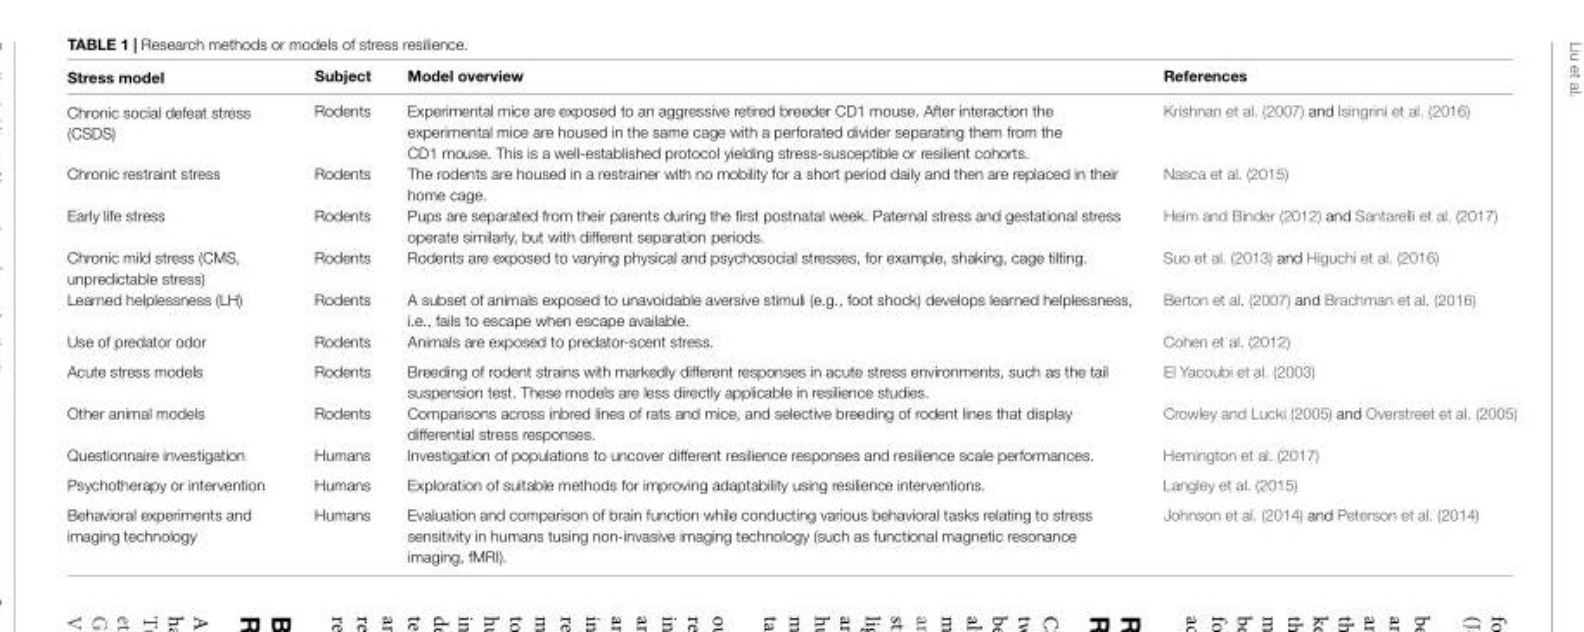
<table><thead><tr><td>Stress model</td><td>Subject</td><td>Model overview</td><td>References</td></tr></thead><tbody><tr><td>Chronic social defeat stress (CSDS)</td><td>Rodents</td><td>Experimental mice are exposed to an aggressive retired breeder CD1 mouse. After interaction the experimental mice are housed in the same cage with a perforated divider separating them from the CD1 mouse. This is a well-established protocol yielding stress-susceptible or resilient cohorts.</td><td>Krishnan et al. (2007) and Isingrini et al. (2016)</td></tr><tr><td>Chronic restraint stress</td><td>Rodents</td><td>The rodents are housed in a restrainer with no mobility for a short period daily and then are replaced in their home cage.</td><td>Nasca et al. (2015)</td></tr><tr><td>Early life stress</td><td>Rodents</td><td>Pups are separated from their parents during the first postnatal week. Paternal stress and gestational stress operate similarly, but with different separation periods.</td><td>Heim and Binder (2012) and Santarelli et al. (2017)</td></tr><tr><td>Chronic mild stress (CMS, unpredictable stress)</td><td>Rodents</td><td>Rodents are exposed to varying physical and psychosocial stresses, for example, shaking, cage tilting.</td><td>Suo et al. (2013) and Higuchi et al. (2016)</td></tr><tr><td>Learned helplessness (LH)</td><td>Rodents</td><td>A subset of animals exposed to unavoidable aversive stimuli (e.g., foot shock) develops learned helplessness, i.e., fails to escape when escape available.</td><td>Berton et al. (2007) and Brachman et al. (2016)</td></tr><tr><td>Use of predator odor</td><td>Rodents</td><td>Animals are exposed to predator-scent stress.</td><td>Cohen et al. (2012)</td></tr><tr><td>Acute stress models</td><td>Rodents</td><td>Breeding of rodent strains with markedly different responses in acute stress environments, such as the tail suspension test. These models are less directly applicable in resilience studies.</td><td>El Yacoubi et al. (2003)</td></tr><tr><td>Other animal models</td><td>Rodents</td><td>Comparisons across inbred lines of rats and mice, and selective breeding of rodent lines that display differential stress responses.</td><td>Crowley and Lucki (2005) and Overstreet et al. (2005)</td></tr><tr><td>Questionnaire investigation</td><td>Humans</td><td>Investigation of populations to uncover different resilience responses and resilience scale performances.</td><td>Hemington et al. (2017)</td></tr><tr><td>Psychotherapy or intervention</td><td>Humans</td><td>Exploration of suitable methods for improving adaptability using resilience interventions.</td><td>Langley et al. (2015)</td></tr><tr><td>Behavioral experiments and imaging technology</td><td>Humans</td><td>Evaluation and comparison of brain function while conducting various behavioral tasks relating to stress sensitivity in humans tusing non-invasive imaging technology (such as functional magnetic resonance imaging, fMRI).</td><td>Johnson et al. (2014) and Peterson et al. (2014)</td></tr></tbody></table>